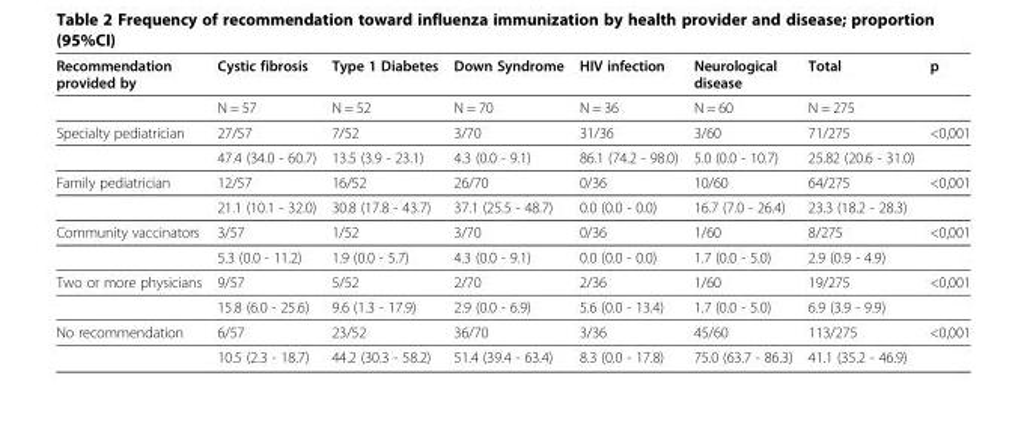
<table><thead><tr><td>Recommendation provided by</td><td>Cystic fibrosis</td><td>Type 1 Diabetes</td><td>Down Syndrome</td><td>HIV infection</td><td>Neurological disease</td><td>Total</td><td>p</td></tr></thead><tbody><tr><td></td><td>N = 57</td><td>N = 52</td><td>N = 70</td><td>N = 36</td><td>N = 60</td><td>N = 275</td><td></td></tr><tr><td rowspan="2">Specialty pediatrician</td><td>27/57</td><td>7/52</td><td>3/70</td><td>31/36</td><td>3/60</td><td>71/275</td><td>&lt;0,001</td></tr><tr><td>47.4 (34.0 - 60.7)</td><td>13.5 (3.9 - 23.1)</td><td>4.3 (0.0 - 9.1)</td><td>86.1 (74.2 - 98.0)</td><td>5.0 (0.0 - 10.7)</td><td>25.82 (20.6 - 31.0)</td><td></td></tr><tr><td rowspan="2">Family pediatrician</td><td>12/57</td><td>16/52</td><td>26/70</td><td>0/36</td><td>10/60</td><td>64/275</td><td>&lt;0,001</td></tr><tr><td>21.1 (10.1 - 32.0)</td><td>30.8 (17.8 - 43.7)</td><td>37.1 (25.5 - 48.7)</td><td>0.0 (0.0 - 0.0)</td><td>16.7 (7.0 - 26.4)</td><td>23.3 (18.2 - 28.3)</td><td></td></tr><tr><td rowspan="2">Community vaccinators</td><td>3/57</td><td>1/52</td><td>3/70</td><td>0/36</td><td>1/60</td><td>8/275</td><td>&lt;0,001</td></tr><tr><td>5.3 (0.0 - 11.2)</td><td>1.9 (0.0 - 5.7)</td><td>4.3 (0.0 - 9.1)</td><td>0.0 (0.0 - 0.0)</td><td>1.7 (0.0 - 5.0)</td><td>2.9 (0.9 - 4.9)</td><td></td></tr><tr><td rowspan="2">Two or more physicians</td><td>9/57</td><td>5/52</td><td>2/70</td><td>2/36</td><td>1/60</td><td>19/275</td><td>&lt;0,001</td></tr><tr><td>15.8 (6.0 - 25.6)</td><td>9.6 (1.3 - 17.9)</td><td>2.9 (0.0 - 6.9)</td><td>5.6 (0.0 - 13.4)</td><td>1.7 (0.0 - 5.0)</td><td>6.9 (3.9 - 9.9)</td><td></td></tr><tr><td rowspan="2">No recommendation</td><td>6/57</td><td>23/52</td><td>36/70</td><td>3/36</td><td>45/60</td><td>113/275</td><td>&lt;0,001</td></tr><tr><td>10.5 (2.3 - 18.7)</td><td>44.2 (30.3 - 58.2)</td><td>51.4 (39.4 - 63.4)</td><td>8.3 (0.0 - 17.8)</td><td>75.0 (63.7 - 86.3)</td><td>41.1 (35.2 - 46.9)</td><td></td></tr></tbody></table>